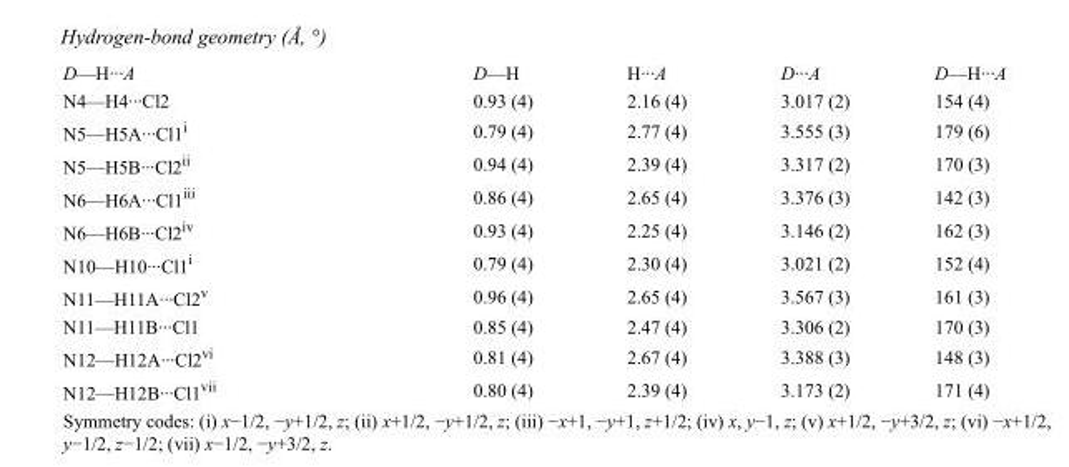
<table><tbody><tr><td>D—H···A</td><td>D—H</td><td>H···A</td><td>D···A</td><td>D—H···A</td></tr><tr><td>N4—H4···Cl2</td><td>0.93 (4)</td><td>2.16 (4)</td><td>3.017 (2)</td><td>154 (4)</td></tr><tr><td>N5—H5A···Cl1<sup>i</sup></td><td>0.79 (4)</td><td>2.77 (4)</td><td>3.555 (3)</td><td>179 (6)</td></tr><tr><td>N5—H5B···Cl2<sup>ii</sup></td><td>0.94 (4)</td><td>2.39 (4)</td><td>3.317 (2)</td><td>170 (3)</td></tr><tr><td>N6—H6A···Cl1<sup>iii</sup></td><td>0.86 (4)</td><td>2.65 (4)</td><td>3.376 (3)</td><td>142 (3)</td></tr><tr><td>N6—H6B···Cl2<sup>iv</sup></td><td>0.93 (4)</td><td>2.25 (4)</td><td>3.146 (2)</td><td>162 (3)</td></tr><tr><td>N10—H10···Cl1<sup>i</sup></td><td>0.79 (4)</td><td>2.30 (4)</td><td>3.021 (2)</td><td>152 (4)</td></tr><tr><td>N11—H11A···Cl2<sup>v</sup></td><td>0.96 (4)</td><td>2.65 (4)</td><td>3.567 (3)</td><td>161 (3)</td></tr><tr><td>N11—H11B···Cl1</td><td>0.85 (4)</td><td>2.47 (4)</td><td>3.306 (2)</td><td>170 (3)</td></tr><tr><td>N12—H12A···Cl2<sup>vi</sup></td><td>0.81 (4)</td><td>2.67 (4)</td><td>3.388 (3)</td><td>148 (3)</td></tr><tr><td>N12—H12B···Cl1<sup>vii</sup></td><td>0.80 (4)</td><td>2.39 (4)</td><td>3.173 (2)</td><td>171 (4)</td></tr></tbody></table>